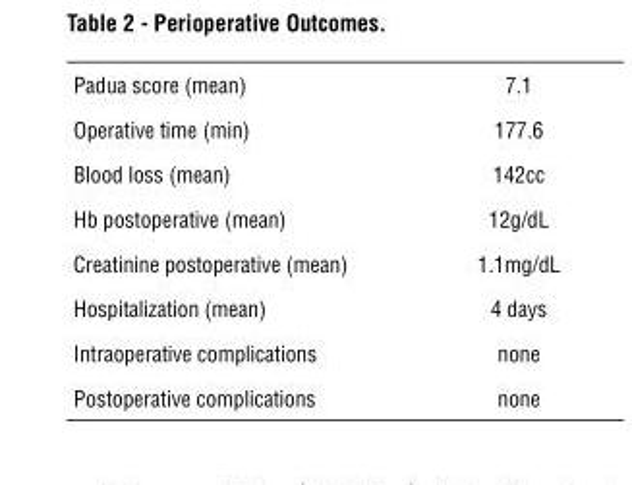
<table><tbody><tr><td>Padua score (mean)</td><td>7.1</td></tr><tr><td>Operative time (min)</td><td>177.6</td></tr><tr><td>Blood loss (mean)</td><td>142cc</td></tr><tr><td>Hb postoperative (mean)</td><td>12g/dL</td></tr><tr><td>Creatinine postoperative (mean)</td><td>1.1mg/dL</td></tr><tr><td>Hospitalization (mean)</td><td>4 days</td></tr><tr><td>Intraoperative complications</td><td>none</td></tr><tr><td>Postoperative complications</td><td>none</td></tr></tbody></table>